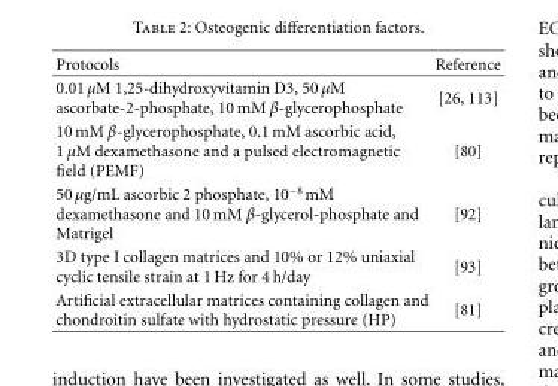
<table><thead><tr><td>Protocols</td><td>Reference</td></tr></thead><tbody><tr><td>0.01 μM 1,25-dihydroxyvitamin D3, 50 μM ascorbate-2-phosphate, 10 mM β-glycerophosphate</td><td>[26, 113]</td></tr><tr><td>10 mM β-glycerophosphate, 0.1 mM ascorbic acid, 1 μM dexamethasone and a pulsed electromagnetic field (PEMF)</td><td>[80]</td></tr><tr><td>50 μg/mL ascorbic 2 phosphate, 10<sup>−8</sup> mM dexamethasone and 10 mM β-glycerol-phosphate and Matrigel</td><td>[92]</td></tr><tr><td>3D type I collagen matrices and 10% or 12% uniaxial cyclic tensile strain at 1 Hz for 4 h/day</td><td>[93]</td></tr><tr><td>Artificial extracellular matrices containing collagen and chondroitin sulfate with hydrostatic pressure (HP)</td><td>[81]</td></tr></tbody></table>